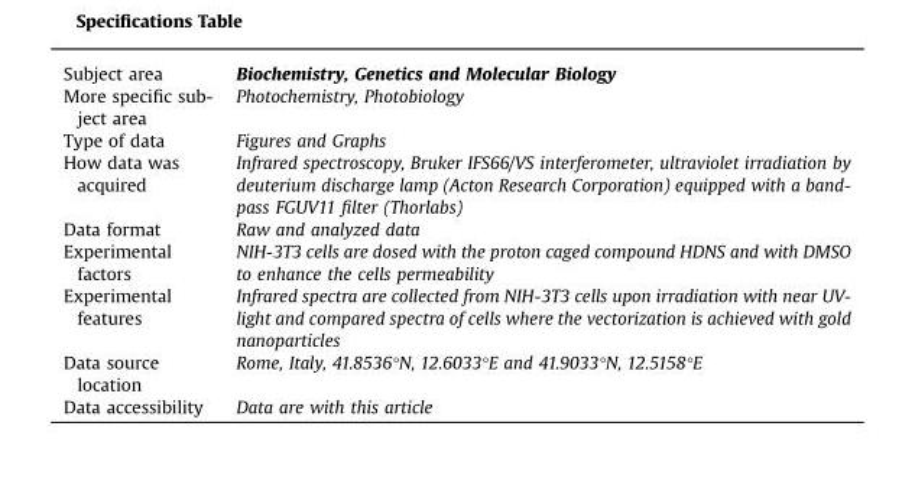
<table><tbody><tr><td>Subject area</td><td>Biochemistry, Genetics and Molecular Biology</td></tr><tr><td>More specific sub- ject area</td><td>Photochemistry, Photobiology</td></tr><tr><td>Type of data</td><td>Figures and Graphs</td></tr><tr><td>How data was acquired</td><td>Infrared spectroscopy, Bruker IFS66/VS interferometer, ultraviolet irradiation by deuterium discharge lamp (Acton Research Corporation) equipped with a band- pass FGUV11 filter (Thorlabs)</td></tr><tr><td>Data format</td><td>Raw and analyzed data</td></tr><tr><td>Experimental factors</td><td>NIH-3T3 cells are dosed with the proton caged compound HDNS and with DMSO to enhance the cells permeability</td></tr><tr><td>Experimental features</td><td>Infrared spectra are collected from NIH-3T3 cells upon irradiation with near UV- light and compared spectra of cells where the vectorization is achieved with gold nanoparticles</td></tr><tr><td>Data source location</td><td>Rome, Italy, 41.8536°N, 12.6033°E and 41.9033°N, 12.5158°E</td></tr><tr><td>Data accessibility</td><td>Data are with this article</td></tr></tbody></table>